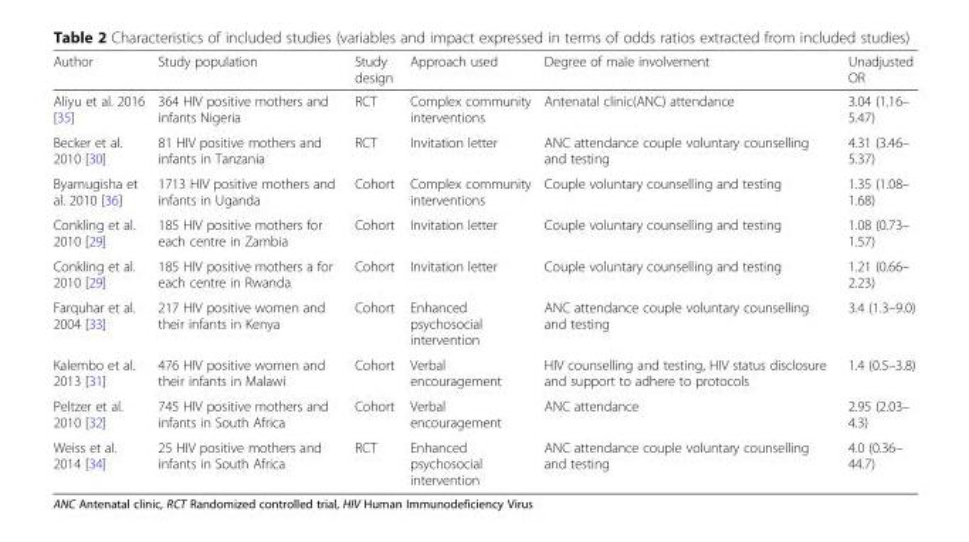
<table><thead><tr><td>Author</td><td>Study population</td><td>Study design</td><td>Approach used</td><td>Degree of male involvement</td><td>Unadjusted OR</td></tr></thead><tbody><tr><td>Aliyu et al. 2016 [35]</td><td>364 HIV positive mothers and infants Nigeria</td><td>RCT</td><td>Complex community interventions</td><td>Antenatal clinic(ANC) attendance</td><td>3.04 (1.16– 5.47)</td></tr><tr><td>Becker et al. 2010 [30]</td><td>81 HIV positive mothers and infants in Tanzania</td><td>RCT</td><td>Invitation letter</td><td>ANC attendance couple voluntary counselling and testing</td><td>4.31 (3.46– 5.37)</td></tr><tr><td>Byamugisha et al. 2010 [36]</td><td>1713 HIV positive mothers and infants in Uganda</td><td>Cohort</td><td>Complex community interventions</td><td>Couple voluntary counselling and testing</td><td>1.35 (1.08– 1.68)</td></tr><tr><td>Conkling et al. 2010 [29]</td><td>185 HIV positive mothers for each centre in Zambia</td><td>Cohort</td><td>Invitation letter</td><td>Couple voluntary counselling and testing</td><td>1.08 (0.73– 1.57)</td></tr><tr><td>Conkling et al. 2010 [29]</td><td>185 HIV positive mothers a for each centre in Rwanda</td><td>Cohort</td><td>Invitation letter</td><td>Couple voluntary counselling and testing</td><td>1.21 (0.66– 2.23)</td></tr><tr><td>Farquhar et al. 2004 [33]</td><td>217 HIV positive women and their infants in Kenya</td><td>Cohort</td><td>Enhanced psychosocial intervention</td><td>ANC attendance couple voluntary counselling and testing</td><td>3.4 (1.3–9.0)</td></tr><tr><td>Kalembo et al. 2013 [31]</td><td>476 HIV positive women and their infants in Malawi</td><td>Cohort</td><td>Verbal encouragement</td><td>HIV counselling and testing, HIV status disclosure and support to adhere to protocols</td><td>1.4 (0.5–3.8)</td></tr><tr><td>Peltzer et al. 2010 [32]</td><td>745 HIV positive mothers and infants in South Africa</td><td>Cohort</td><td>Verbal encouragement</td><td>ANC attendance</td><td>2.95 (2.03– 4.3)</td></tr><tr><td>Weiss et al. 2014 [34]</td><td>25 HIV positive mothers and infants in South Africa</td><td>RCT</td><td>Enhanced psychosocial intervention</td><td>ANC attendance couple voluntary counselling and testing</td><td>4.0 (0.36– 44.7)</td></tr></tbody></table>